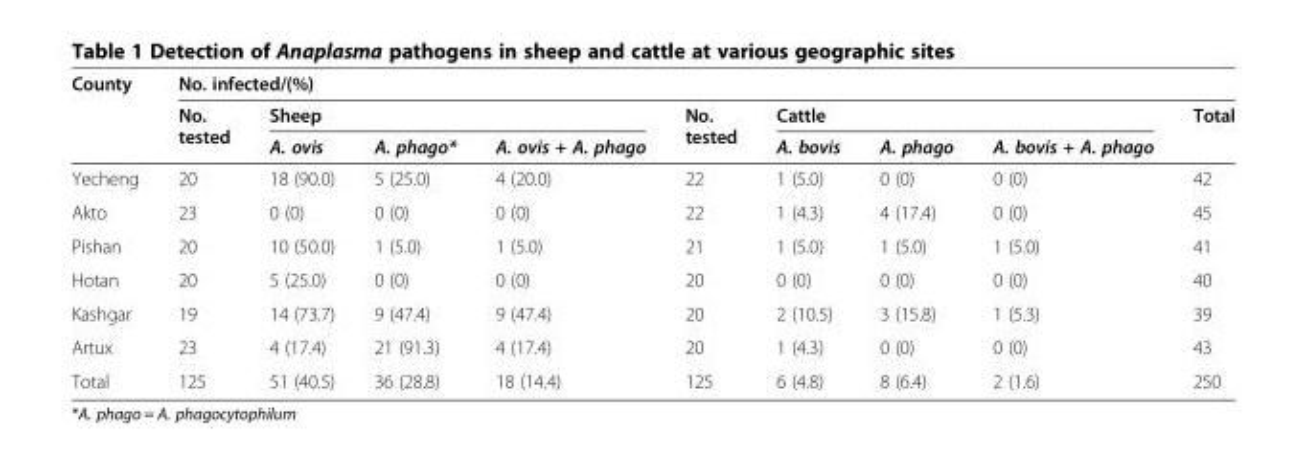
<table><thead><tr><td rowspan="3">County</td><td colspan="9">No. infected/(%)</td></tr><tr><td rowspan="2">No. tested</td><td colspan="3">Sheep</td><td rowspan="2">No. tested</td><td colspan="3">Cattle</td><td rowspan="2">Total</td></tr><tr><td>A. ovis</td><td>A. phago*</td><td>A. ovis + A. phago</td><td>A. bovis</td><td>A. phago</td><td>A. bovis + A. phago</td></tr></thead><tbody><tr><td>Yecheng</td><td>20</td><td>18 (90.0)</td><td>5 (25.0)</td><td>4 (20.0)</td><td>22</td><td>1 (5.0)</td><td>0 (0)</td><td>0 (0)</td><td>42</td></tr><tr><td>Akto</td><td>23</td><td>0 (0)</td><td>0 (0)</td><td>0 (0)</td><td>22</td><td>1 (4.3)</td><td>4 (17.4)</td><td>0 (0)</td><td>45</td></tr><tr><td>Pishan</td><td>20</td><td>10 (50.0)</td><td>1 (5.0)</td><td>1 (5.0)</td><td>21</td><td>1 (5.0)</td><td>1 (5.0)</td><td>1 (5.0)</td><td>41</td></tr><tr><td>Hotan</td><td>20</td><td>5 (25.0)</td><td>0 (0)</td><td>0 (0)</td><td>20</td><td>0 (0)</td><td>0 (0)</td><td>0 (0)</td><td>40</td></tr><tr><td>Kashgar</td><td>19</td><td>14 (73.7)</td><td>9 (47.4)</td><td>9 (47.4)</td><td>20</td><td>2 (10.5)</td><td>3 (15.8)</td><td>1 (5.3)</td><td>39</td></tr><tr><td>Artux</td><td>23</td><td>4 (17.4)</td><td>21 (91.3)</td><td>4 (17.4)</td><td>20</td><td>1 (4.3)</td><td>0 (0)</td><td>0 (0)</td><td>43</td></tr><tr><td>Total</td><td>125</td><td>51 (40.5)</td><td>36 (28.8)</td><td>18 (14.4)</td><td>125</td><td>6 (4.8)</td><td>8 (6.4)</td><td>2 (1.6)</td><td>250</td></tr></tbody></table>